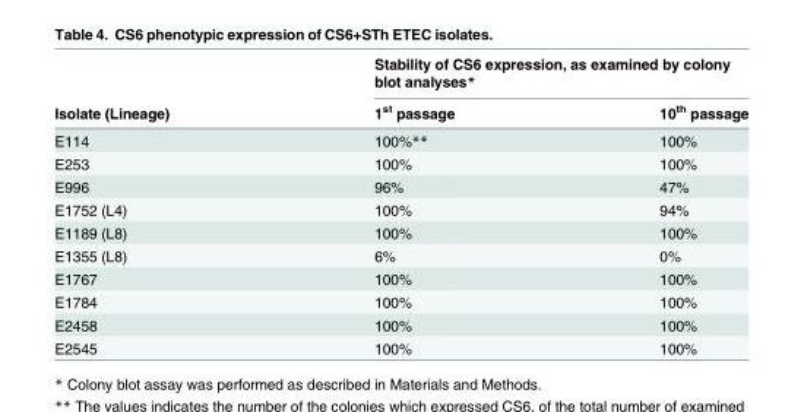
<table><thead><tr><td rowspan="2">Isolate (Lineage)</td><td colspan="2">Stability of CS6 expression, as examined by colony blot analyses*</td></tr><tr><td>1<sup>st</sup> passage</td><td>10<sup>th</sup> passage</td></tr></thead><tbody><tr><td>E114</td><td>100%**</td><td>100%</td></tr><tr><td>E253</td><td>100%</td><td>100%</td></tr><tr><td>E996</td><td>96%</td><td>47%</td></tr><tr><td>E1752 (L4)</td><td>100%</td><td>94%</td></tr><tr><td>E1189 (L8)</td><td>100%</td><td>100%</td></tr><tr><td>E1355 (L8)</td><td>6%</td><td>0%</td></tr><tr><td>E1767</td><td>100%</td><td>100%</td></tr><tr><td>E1784</td><td>100%</td><td>100%</td></tr><tr><td>E2458</td><td>100%</td><td>100%</td></tr><tr><td>E2545</td><td>100%</td><td>100%</td></tr></tbody></table>